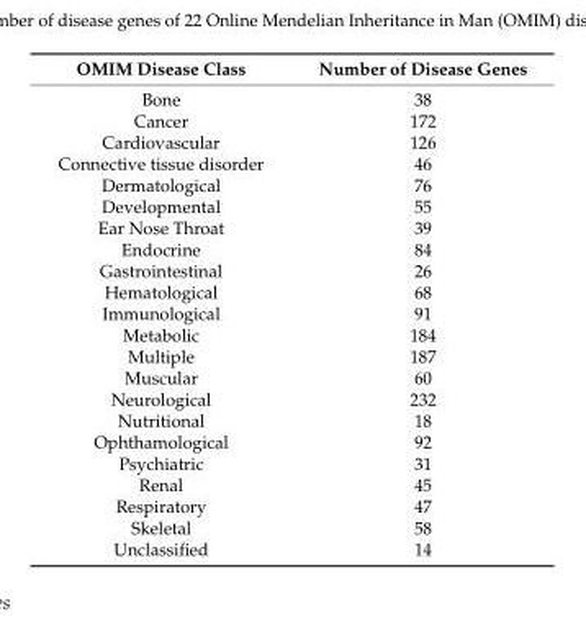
<table><thead><tr><td>OMIM Disease Class</td><td>Number of Disease Genes</td></tr></thead><tbody><tr><td>Bone</td><td>38</td></tr><tr><td>Cancer</td><td>172</td></tr><tr><td>Cardiovascular</td><td>126</td></tr><tr><td>Connective tissue disorder</td><td>46</td></tr><tr><td>Dermatological</td><td>76</td></tr><tr><td>Developmental</td><td>55</td></tr><tr><td>Ear Nose Throat</td><td>39</td></tr><tr><td>Endocrine</td><td>84</td></tr><tr><td>Gastrointestinal</td><td>26</td></tr><tr><td>Hematological</td><td>68</td></tr><tr><td>Immunological</td><td>91</td></tr><tr><td>Metabolic</td><td>184</td></tr><tr><td>Multiple</td><td>187</td></tr><tr><td>Muscular</td><td>60</td></tr><tr><td>Neurological</td><td>232</td></tr><tr><td>Nutritional</td><td>18</td></tr><tr><td>Ophthamological</td><td>92</td></tr><tr><td>Psychiatric</td><td>31</td></tr><tr><td>Renal</td><td>45</td></tr><tr><td>Respiratory</td><td>47</td></tr><tr><td>Skeletal</td><td>58</td></tr><tr><td>Unclassified</td><td>14</td></tr></tbody></table>